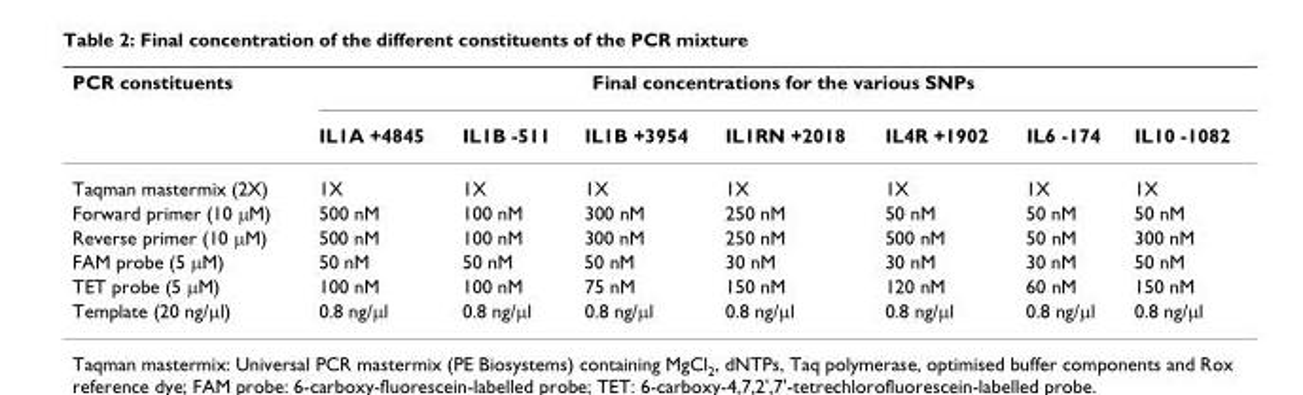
<table><thead><tr><td rowspan="2">PCR constituents</td><td colspan="7">Final concentrations for the various SNPs</td></tr><tr><td>IL1A +4845</td><td>IL1B -511</td><td>IL1B +3954</td><td>IL1RN +2018</td><td>IL4R +1902</td><td>IL6 -174</td><td>IL10 -1082</td></tr></thead><tbody><tr><td>Taqman mastermix (2X)</td><td>1X</td><td>1X</td><td>1X</td><td>1X</td><td>1X</td><td>1X</td><td>1X</td></tr><tr><td>Forward primer (10 μM)</td><td>500 nM</td><td>100 nM</td><td>300 nM</td><td>250 nM</td><td>50 nM</td><td>50 nM</td><td>50 nM</td></tr><tr><td>Reverse primer (10 μM)</td><td>500 nM</td><td>100 nM</td><td>300 nM</td><td>250 nM</td><td>500 nM</td><td>50 nM</td><td>300 nM</td></tr><tr><td>FAM probe (5 μM)</td><td>50 nM</td><td>50 nM</td><td>50 nM</td><td>30 nM</td><td>30 nM</td><td>30 nM</td><td>50 nM</td></tr><tr><td>TET probe (5 μM)</td><td>100 nM</td><td>100 nM</td><td>75 nM</td><td>150 nM</td><td>120 nM</td><td>60 nM</td><td>150 nM</td></tr><tr><td>Template (20 ng/μl)</td><td>0.8 ng/μl</td><td>0.8 ng/μl</td><td>0.8 ng/μl</td><td>0.8 ng/μl</td><td>0.8 ng/μl</td><td>0.8 ng/μl</td><td>0.8 ng/μl</td></tr></tbody></table>